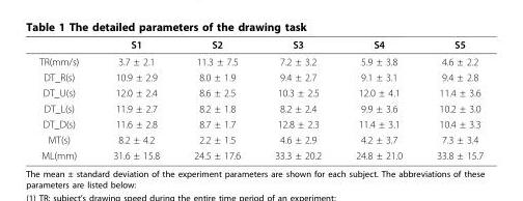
<table><thead><tr><td></td><td>S1</td><td>S2</td><td>S3</td><td>S4</td><td>S5</td></tr></thead><tbody><tr><td>TR(mm/s)</td><td>3.7 ± 2.1</td><td>11.3 ± 7.5</td><td>7.2 ± 3.2</td><td>5.9 ± 3.8</td><td>4.6 ± 2.2</td></tr><tr><td>DT_R(s)</td><td>10.9 ± 2.9</td><td>8.0 ± 1.9</td><td>9.4 ± 2.7</td><td>9.1 ± 3.1</td><td>9.4 ± 2.8</td></tr><tr><td>DT_U(s)</td><td>12.0 ± 2.4</td><td>8.6 ± 2.5</td><td>10.3 ± 2.5</td><td>12.0 ± 4.1</td><td>11.4 ± 3.6</td></tr><tr><td>DT_L(s)</td><td>11.9 ± 2.7</td><td>8.2 ± 1.8</td><td>8.2 ± 2.4</td><td>9.9 ± 3.6</td><td>10.2 ± 3.0</td></tr><tr><td>DT_D(s)</td><td>11.6 ± 2.8</td><td>8.7 ± 1.7</td><td>12.8 ± 2.3</td><td>11.4 ± 3.1</td><td>10.4 ± 3.3</td></tr><tr><td>MT(s)</td><td>8.2 ± 4.2</td><td>2.2 ± 1.5</td><td>4.6 ± 2.9</td><td>4.2 ± 3.7</td><td>7.3 ± 3.4</td></tr><tr><td>ML(mm)</td><td>31.6 ± 15.8</td><td>24.5 ± 17.6</td><td>33.3 ± 20.2</td><td>24.8 ± 21.0</td><td>33.8 ± 15.7</td></tr></tbody></table>